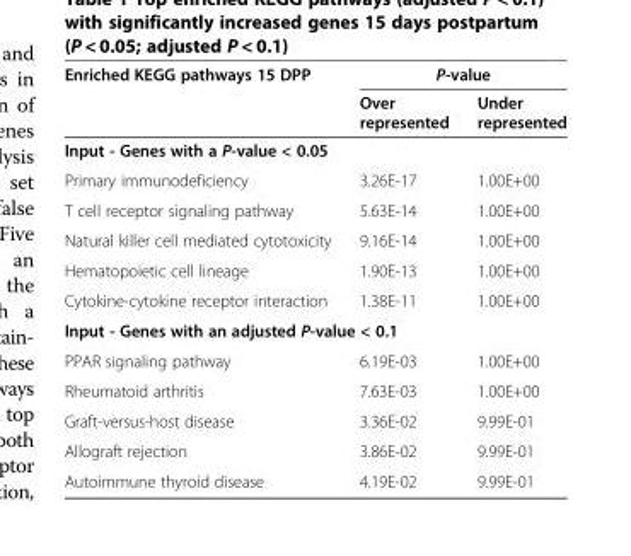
<table><thead><tr><td rowspan="2">Enriched KEGG pathways 15 DPP</td><td colspan="2">P-value</td></tr><tr><td>Over represented</td><td>Under represented</td></tr></thead><tbody><tr><td colspan="3">Input - Genes with a P-value &lt; 0.05</td></tr><tr><td>Primary immunodeficiency</td><td>3.26E-17</td><td>1.00E+00</td></tr><tr><td>T cell receptor signaling pathway</td><td>5.63E-14</td><td>1.00E+00</td></tr><tr><td>Natural killer cell mediated cytotoxicity</td><td>9.16E-14</td><td>1.00E+00</td></tr><tr><td>Hematopoietic cell lineage</td><td>1.90E-13</td><td>1.00E+00</td></tr><tr><td>Cytokine-cytokine receptor interaction</td><td>1.38E-11</td><td>1.00E+00</td></tr><tr><td colspan="3">Input - Genes with an adjusted P-value &lt; 0.1</td></tr><tr><td>PPAR signaling pathway</td><td>6.19E-03</td><td>1.00E+00</td></tr><tr><td>Rheumatoid arthritis</td><td>7.63E-03</td><td>1.00E+00</td></tr><tr><td>Graft-versus-host disease</td><td>3.36E-02</td><td>9.99E-01</td></tr><tr><td>Allograft rejection</td><td>3.86E-02</td><td>9.99E-01</td></tr><tr><td>Autoimmune thyroid disease</td><td>4.19E-02</td><td>9.99E-01</td></tr></tbody></table>